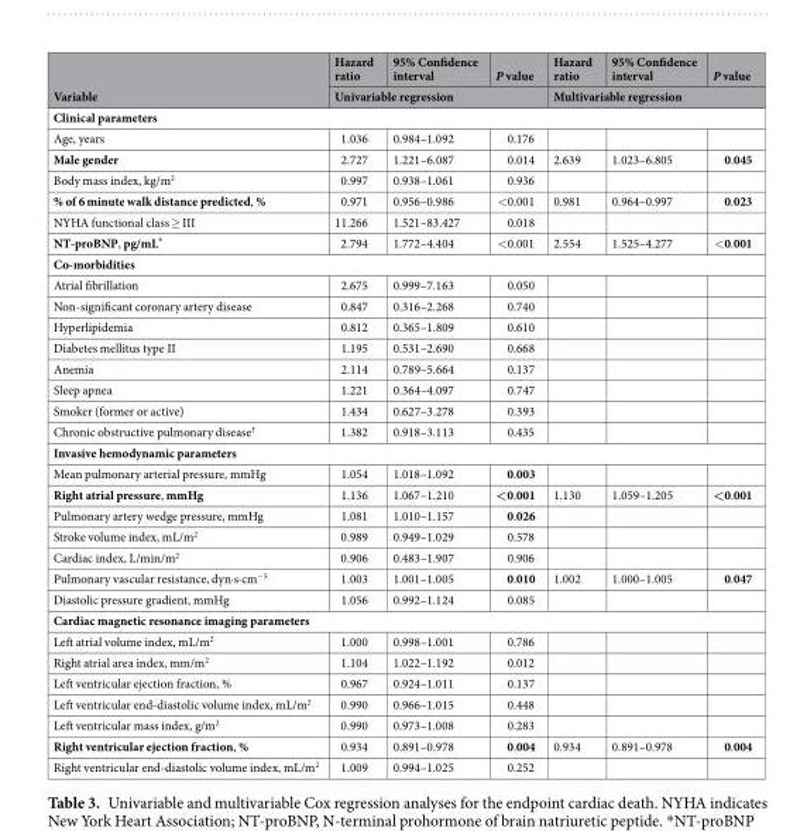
<table><thead><tr><td rowspan="2">Variable</td><td>Hazard ratio</td><td>95% Confidence interval</td><td>P value</td><td>Hazard ratio</td><td>95% Confidence interval</td><td>P value</td></tr><tr><td colspan="3">Univariable regression</td><td colspan="3">Multivariable regression</td></tr></thead><tbody><tr><td colspan="7">Clinical parameters</td></tr><tr><td>Age, years</td><td>1.036</td><td>0.984–1.092</td><td>0.176</td><td></td><td></td><td></td></tr><tr><td>Male gender</td><td>2.727</td><td>1.221–6.087</td><td>0.014</td><td>2.639</td><td>1.023–6.805</td><td>0.045</td></tr><tr><td>Body mass index, kg/m<sup>2</sup></td><td>0.997</td><td>0.938–1.061</td><td>0.936</td><td></td><td></td><td></td></tr><tr><td>% of 6 minute walk distance predicted, %</td><td>0.971</td><td>0.956–0.986</td><td>&lt;0.001</td><td>0.981</td><td>0.964–0.997</td><td>0.023</td></tr><tr><td>NYHA functional class ≥ III</td><td>11.266</td><td>1.521–83.427</td><td>0.018</td><td></td><td></td><td></td></tr><tr><td>NT-proBNP, pg/mL*</td><td>2.794</td><td>1.772–4.404</td><td>&lt;0.001</td><td>2.554</td><td>1.525–4.277</td><td>&lt;0.001</td></tr><tr><td colspan="7">Co-morbidities</td></tr><tr><td>Atrial fibrillation</td><td>2.675</td><td>0.999–7.163</td><td>0.050</td><td></td><td></td><td></td></tr><tr><td>Non-significant coronary artery disease</td><td>0.847</td><td>0.316–2.268</td><td>0.740</td><td></td><td></td><td></td></tr><tr><td>Hyperlipidemia</td><td>0.812</td><td>0.365–1.809</td><td>0.610</td><td></td><td></td><td></td></tr><tr><td>Diabetes mellitus type II</td><td>1.195</td><td>0.531–2.690</td><td>0.668</td><td></td><td></td><td></td></tr><tr><td>Anemia</td><td>2.114</td><td>0.789–5.664</td><td>0.137</td><td></td><td></td><td></td></tr><tr><td>Sleep apnea</td><td>1.221</td><td>0.364–4.097</td><td>0.747</td><td></td><td></td><td></td></tr><tr><td>Smoker (former or active)</td><td>1.434</td><td>0.627–3.278</td><td>0.393</td><td></td><td></td><td></td></tr><tr><td>Chronic obstructive pulmonary disease<sup>†</sup></td><td>1.382</td><td>0.918–3.113</td><td>0.435</td><td></td><td></td><td></td></tr><tr><td colspan="7">Invasive hemodynamic parameters</td></tr><tr><td>Mean pulmonary arterial pressure, mmHg</td><td>1.054</td><td>1.018–1.092</td><td>0.003</td><td></td><td></td><td></td></tr><tr><td>Right atrial pressure, mmHg</td><td>1.136</td><td>1.067–1.210</td><td>&lt;0.001</td><td>1.130</td><td>1.059–1.205</td><td>&lt;0.001</td></tr><tr><td>Pulmonary artery wedge pressure, mmHg</td><td>1.081</td><td>1.010–1.157</td><td>0.026</td><td></td><td></td><td></td></tr><tr><td>Stroke volume index, mL/m<sup>2</sup></td><td>0.989</td><td>0.949–1.029</td><td>0.578</td><td></td><td></td><td></td></tr><tr><td>Cardiac index, L/min/m<sup>2</sup></td><td>0.906</td><td>0.483–1.907</td><td>0.906</td><td></td><td></td><td></td></tr><tr><td>Pulmonary vascular resistance, dyn·s·cm<sup>−5</sup></td><td>1.003</td><td>1.001–1.005</td><td>0.010</td><td>1.002</td><td>1.000–1.005</td><td>0.047</td></tr><tr><td>Diastolic pressure gradient, mmHg</td><td>1.056</td><td>0.992–1.124</td><td>0.085</td><td></td><td></td><td></td></tr><tr><td colspan="7">Cardiac magnetic resonance imaging parameters</td></tr><tr><td>Left atrial volume index, mL/m<sup>2</sup></td><td>1.000</td><td>0.998–1.001</td><td>0.786</td><td></td><td></td><td></td></tr><tr><td>Right atrial area index, mm/m<sup>2</sup></td><td>1.104</td><td>1.022–1.192</td><td>0.012</td><td></td><td></td><td></td></tr><tr><td>Left ventricular ejection fraction, %</td><td>0.967</td><td>0.924–1.011</td><td>0.137</td><td></td><td></td><td></td></tr><tr><td>Left ventricular end-diastolic volume index, mL/m<sup>2</sup></td><td>0.990</td><td>0.966–1.015</td><td>0.448</td><td></td><td></td><td></td></tr><tr><td>Left ventricular mass index, g/m<sup>2</sup></td><td>0.990</td><td>0.973–1.008</td><td>0.283</td><td></td><td></td><td></td></tr><tr><td>Right ventricular ejection fraction, %</td><td>0.934</td><td>0.891–0.978</td><td>0.004</td><td>0.934</td><td>0.891–0.978</td><td>0.004</td></tr><tr><td>Right ventricular end-diastolic volume index, mL/m<sup>2</sup></td><td>1.009</td><td>0.994–1.025</td><td>0.252</td><td></td><td></td><td></td></tr></tbody></table>